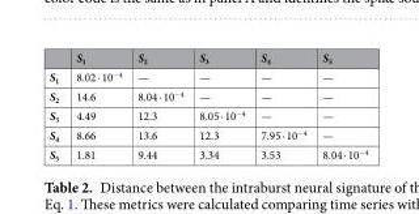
<table><thead><tr><td></td><td>S<sub>1</sub></td><td>S<sub>2</sub></td><td>S<sub>3</sub></td><td>S<sub>4</sub></td><td>S<sub>5</sub></td></tr></thead><tbody><tr><td>S<sub>1</sub></td><td>8.02 · 10<sup>−4</sup></td><td>—</td><td>—</td><td>—</td><td>—</td></tr><tr><td>S<sub>2</sub></td><td>14.6</td><td>8.04 · 10<sup>−4</sup></td><td>—</td><td>—</td><td>—</td></tr><tr><td>S<sub>3</sub></td><td>4.49</td><td>12.3</td><td>8.05 · 10<sup>−4</sup></td><td>—</td><td>—</td></tr><tr><td>S<sub>4</sub></td><td>8.66</td><td>13.6</td><td>12.3</td><td>7.95 · 10<sup>−4</sup></td><td>—</td></tr><tr><td>S<sub>5</sub></td><td>1.81</td><td>9.44</td><td>3.34</td><td>3.53</td><td>8.04 · 10<sup>−4</sup></td></tr></tbody></table>